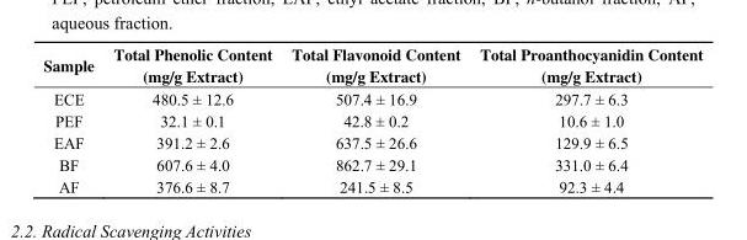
<table><thead><tr><td>Sample</td><td>Total Phenolic Content (mg/g Extract)</td><td>Total Flavonoid Content (mg/g Extract)</td><td>Total Proanthocyanidin Content (mg/g Extract)</td></tr></thead><tbody><tr><td>ECE</td><td>480.5 ± 12.6</td><td>507.4 ± 16.9</td><td>297.7 ± 6.3</td></tr><tr><td>PEF</td><td>32.1 ± 0.1</td><td>42.8 ± 0.2</td><td>10.6 ± 1.0</td></tr><tr><td>EAF</td><td>391.2 ± 2.6</td><td>637.5 ± 26.6</td><td>129.9 ± 6.5</td></tr><tr><td>BF</td><td>607.6 ± 4.0</td><td>862.7 ± 29.1</td><td>331.0 ± 6.4</td></tr><tr><td>AF</td><td>376.6 ± 8.7</td><td>241.5 ± 8.5</td><td>92.3 ± 4.4</td></tr></tbody></table>